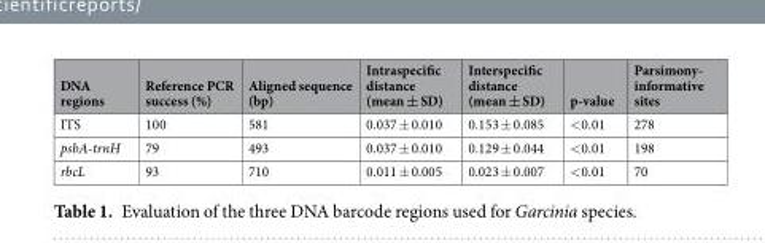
<table><thead><tr><td>DNA regions</td><td>Reference PCR success (%)</td><td>Aligned sequence (bp)</td><td>Intraspecific distance (mean ± SD)</td><td>Interspecific distance (mean ± SD)</td><td>p-value</td><td>Parsimony- informative sites</td></tr></thead><tbody><tr><td>ITS</td><td>100</td><td>581</td><td>0.037 ± 0.010</td><td>0.153 ± 0.085</td><td>&lt;0.01</td><td>278</td></tr><tr><td>psbA-trnH</td><td>79</td><td>493</td><td>0.037 ± 0.010</td><td>0.129 ± 0.044</td><td>&lt;0.01</td><td>198</td></tr><tr><td>rbcL</td><td>93</td><td>710</td><td>0.011 ± 0.005</td><td>0.023 ± 0.007</td><td>&lt;0.01</td><td>70</td></tr></tbody></table>